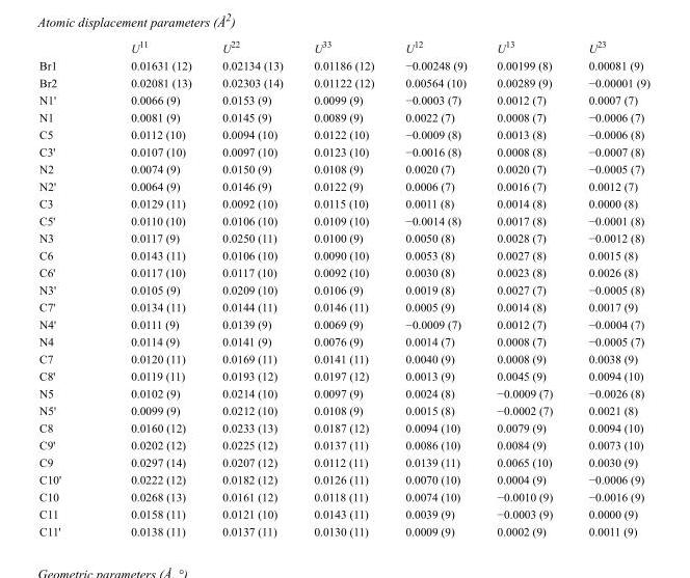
<table><thead><tr><td></td><td>U<sup>11</sup></td><td>U<sup>22</sup></td><td>U<sup>33</sup></td><td>U<sup>12</sup></td><td>U<sup>13</sup></td><td>U<sup>23</sup></td></tr></thead><tbody><tr><td>Br1</td><td>0.01631 (12)</td><td>0.02134 (13)</td><td>0.01186 (12)</td><td>−0.00248 (9)</td><td>0.00199 (8)</td><td>0.00081 (9)</td></tr><tr><td>Br2</td><td>0.02081 (13)</td><td>0.02303 (14)</td><td>0.01122 (12)</td><td>0.00564 (10)</td><td>0.00289 (9)</td><td>−0.00001 (9)</td></tr><tr><td>N1&#x27;</td><td>0.0066 (9)</td><td>0.0153 (9)</td><td>0.0099 (9)</td><td>−0.0003 (7)</td><td>0.0012 (7)</td><td>0.0007 (7)</td></tr><tr><td>N1</td><td>0.0081 (9)</td><td>0.0145 (9)</td><td>0.0089 (9)</td><td>0.0022 (7)</td><td>0.0008 (7)</td><td>−0.0006 (7)</td></tr><tr><td>C5</td><td>0.0112 (10)</td><td>0.0094 (10)</td><td>0.0122 (10)</td><td>−0.0009 (8)</td><td>0.0013 (8)</td><td>−0.0006 (8)</td></tr><tr><td>C3&#x27;</td><td>0.0107 (10)</td><td>0.0097 (10)</td><td>0.0123 (10)</td><td>−0.0016 (8)</td><td>0.0008 (8)</td><td>−0.0007 (8)</td></tr><tr><td>N2</td><td>0.0074 (9)</td><td>0.0150 (9)</td><td>0.0108 (9)</td><td>0.0020 (7)</td><td>0.0020 (7)</td><td>−0.0005 (7)</td></tr><tr><td>N2&#x27;</td><td>0.0064 (9)</td><td>0.0146 (9)</td><td>0.0122 (9)</td><td>0.0006 (7)</td><td>0.0016 (7)</td><td>0.0012 (7)</td></tr><tr><td>C3</td><td>0.0129 (11)</td><td>0.0092 (10)</td><td>0.0115 (10)</td><td>0.0011 (8)</td><td>0.0014 (8)</td><td>0.0000 (8)</td></tr><tr><td>C5&#x27;</td><td>0.0110 (10)</td><td>0.0106 (10)</td><td>0.0109 (10)</td><td>−0.0014 (8)</td><td>0.0017 (8)</td><td>−0.0001 (8)</td></tr><tr><td>N3</td><td>0.0117 (9)</td><td>0.0250 (11)</td><td>0.0100 (9)</td><td>0.0050 (8)</td><td>0.0028 (7)</td><td>−0.0012 (8)</td></tr><tr><td>C6</td><td>0.0143 (11)</td><td>0.0106 (10)</td><td>0.0090 (10)</td><td>0.0053 (8)</td><td>0.0027 (8)</td><td>0.0015 (8)</td></tr><tr><td>C6&#x27;</td><td>0.0117 (10)</td><td>0.0117 (10)</td><td>0.0092 (10)</td><td>0.0030 (8)</td><td>0.0023 (8)</td><td>0.0026 (8)</td></tr><tr><td>N3&#x27;</td><td>0.0105 (9)</td><td>0.0209 (10)</td><td>0.0106 (9)</td><td>0.0019 (8)</td><td>0.0027 (7)</td><td>−0.0005 (8)</td></tr><tr><td>C7&#x27;</td><td>0.0134 (11)</td><td>0.0144 (11)</td><td>0.0146 (11)</td><td>0.0005 (9)</td><td>0.0014 (8)</td><td>0.0017 (9)</td></tr><tr><td>N4&#x27;</td><td>0.0111 (9)</td><td>0.0139 (9)</td><td>0.0069 (9)</td><td>−0.0009 (7)</td><td>0.0012 (7)</td><td>−0.0004 (7)</td></tr><tr><td>N4</td><td>0.0114 (9)</td><td>0.0141 (9)</td><td>0.0076 (9)</td><td>0.0014 (7)</td><td>0.0008 (7)</td><td>−0.0005 (7)</td></tr><tr><td>C7</td><td>0.0120 (11)</td><td>0.0169 (11)</td><td>0.0141 (11)</td><td>0.0040 (9)</td><td>0.0008 (9)</td><td>0.0038 (9)</td></tr><tr><td>C8&#x27;</td><td>0.0119 (11)</td><td>0.0193 (12)</td><td>0.0197 (12)</td><td>0.0013 (9)</td><td>0.0045 (9)</td><td>0.0094 (10)</td></tr><tr><td>N5</td><td>0.0102 (9)</td><td>0.0214 (10)</td><td>0.0097 (9)</td><td>0.0024 (8)</td><td>−0.0009 (7)</td><td>−0.0026 (8)</td></tr><tr><td>N5&#x27;</td><td>0.0099 (9)</td><td>0.0212 (10)</td><td>0.0108 (9)</td><td>0.0015 (8)</td><td>−0.0002 (7)</td><td>0.0021 (8)</td></tr><tr><td>C8</td><td>0.0160 (12)</td><td>0.0233 (13)</td><td>0.0187 (12)</td><td>0.0094 (10)</td><td>0.0079 (9)</td><td>0.0094 (10)</td></tr><tr><td>C9&#x27;</td><td>0.0202 (12)</td><td>0.0225 (12)</td><td>0.0137 (11)</td><td>0.0086 (10)</td><td>0.0084 (9)</td><td>0.0073 (10)</td></tr><tr><td>C9</td><td>0.0297 (14)</td><td>0.0207 (12)</td><td>0.0112 (11)</td><td>0.0139 (11)</td><td>0.0065 (10)</td><td>0.0030 (9)</td></tr><tr><td>C10&#x27;</td><td>0.0222 (12)</td><td>0.0182 (12)</td><td>0.0126 (11)</td><td>0.0070 (10)</td><td>0.0004 (9)</td><td>−0.0006 (9)</td></tr><tr><td>C10</td><td>0.0268 (13)</td><td>0.0161 (12)</td><td>0.0118 (11)</td><td>0.0074 (10)</td><td>−0.0010 (9)</td><td>−0.0016 (9)</td></tr><tr><td>C11</td><td>0.0158 (11)</td><td>0.0121 (10)</td><td>0.0143 (11)</td><td>0.0039 (9)</td><td>−0.0003 (9)</td><td>0.0000 (9)</td></tr><tr><td>C11&#x27;</td><td>0.0138 (11)</td><td>0.0137 (11)</td><td>0.0130 (11)</td><td>0.0009 (9)</td><td>0.0002 (9)</td><td>0.0011 (9)</td></tr></tbody></table>